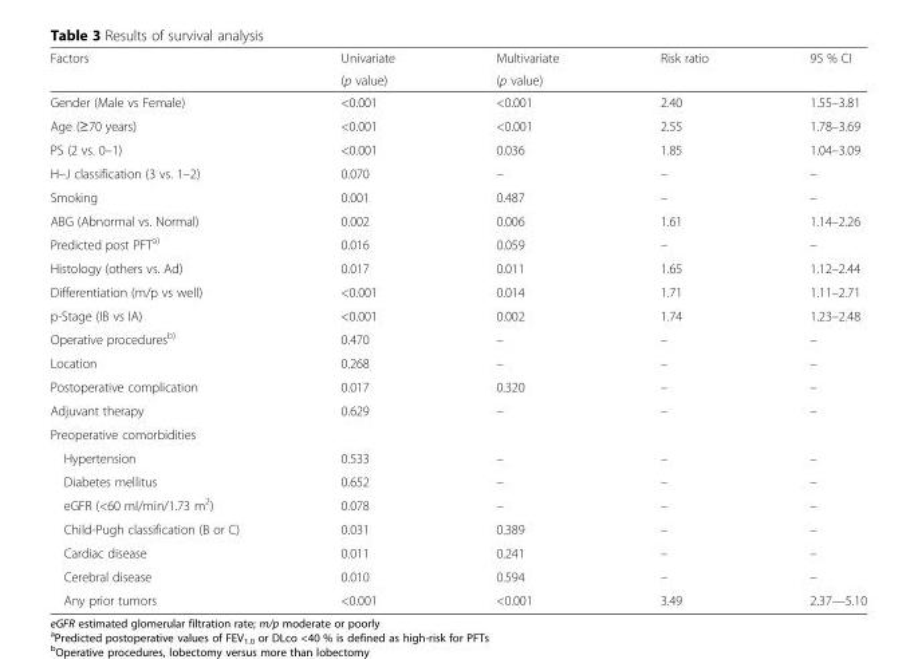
<table><thead><tr><td rowspan="2">Factors</td><td rowspan="2">Univariate (p value)</td><td rowspan="2">Multivariate (p value)</td><td rowspan="2">Risk ratio</td><td rowspan="2">95 % CI</td></tr><tr></tr></thead><tbody><tr><td>Gender (Male vs Female)</td><td>&lt;0.001</td><td>&lt;0.001</td><td>2.40</td><td>1.55–3.81</td></tr><tr><td>Age (≥70 years)</td><td>&lt;0.001</td><td>&lt;0.001</td><td>2.55</td><td>1.78–3.69</td></tr><tr><td>PS (2 vs. 0–1)</td><td>&lt;0.001</td><td>0.036</td><td>1.85</td><td>1.04–3.09</td></tr><tr><td>H–J classification (3 vs. 1–2)</td><td>0.070</td><td>–</td><td>–</td><td>–</td></tr><tr><td>Smoking</td><td>0.001</td><td>0.487</td><td>–</td><td>–</td></tr><tr><td>ABG (Abnormal vs. Normal)</td><td>0.002</td><td>0.006</td><td>1.61</td><td>1.14–2.26</td></tr><tr><td>Predicted post PFT<sup>a)</sup></td><td>0.016</td><td>0.059</td><td>–</td><td>–</td></tr><tr><td>Histology (others vs. Ad)</td><td>0.017</td><td>0.011</td><td>1.65</td><td>1.12–2.44</td></tr><tr><td>Differentiation (m/p vs well)</td><td>&lt;0.001</td><td>0.014</td><td>1.71</td><td>1.11–2.71</td></tr><tr><td>p-Stage (IB vs IA)</td><td>&lt;0.001</td><td>0.002</td><td>1.74</td><td>1.23–2.48</td></tr><tr><td>Operative procedures<sup>b)</sup></td><td>0.470</td><td>–</td><td>–</td><td>–</td></tr><tr><td>Location</td><td>0.268</td><td>–</td><td>–</td><td>–</td></tr><tr><td>Postoperative complication</td><td>0.017</td><td>0.320</td><td>–</td><td>–</td></tr><tr><td>Adjuvant therapy</td><td>0.629</td><td>–</td><td>–</td><td>–</td></tr><tr><td colspan="5">Preoperative comorbidities</td></tr><tr><td>Hypertension</td><td>0.533</td><td>–</td><td>–</td><td>–</td></tr><tr><td>Diabetes mellitus</td><td>0.652</td><td>–</td><td>–</td><td>–</td></tr><tr><td>eGFR (&lt;60 ml/min/1.73 m<sup>2</sup>)</td><td>0.078</td><td>–</td><td>–</td><td>–</td></tr><tr><td>Child-Pugh classification (B or C)</td><td>0.031</td><td>0.389</td><td>–</td><td>–</td></tr><tr><td>Cardiac disease</td><td>0.011</td><td>0.241</td><td>–</td><td>–</td></tr><tr><td>Cerebral disease</td><td>0.010</td><td>0.594</td><td>–</td><td>–</td></tr><tr><td>Any prior tumors</td><td>&lt;0.001</td><td>&lt;0.001</td><td>3.49</td><td>2.37—5.10</td></tr></tbody></table>